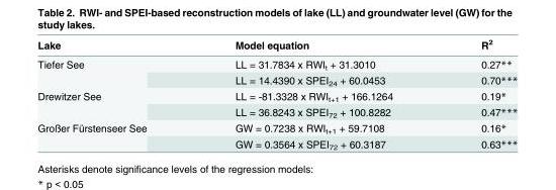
<table><thead><tr><td>Lake</td><td>Model equation</td><td>R<sup>2</sup></td></tr></thead><tbody><tr><td rowspan="2">Tiefer See</td><td>LL = 31.7834 x RWI<sub>t</sub> + 31.3010</td><td>0.27**</td></tr><tr><td>LL = 14.4390 x SPEI<sub>24</sub> + 60.0453</td><td>0.70***</td></tr><tr><td rowspan="2">Drewitzer See</td><td>LL = -81.3328 x RWI<sub>t+1</sub> + 166.1264</td><td>0.19*</td></tr><tr><td>LL = 36.8243 x SPEI<sub>72</sub> + 100.8282</td><td>0.47***</td></tr><tr><td rowspan="2">Großer Fürstenseer See</td><td>GW = 0.7238 x RWI<sub>t+1</sub> + 59.7108</td><td>0.16*</td></tr><tr><td>GW = 0.3564 x SPEI<sub>72</sub> + 60.3187</td><td>0.63***</td></tr></tbody></table>